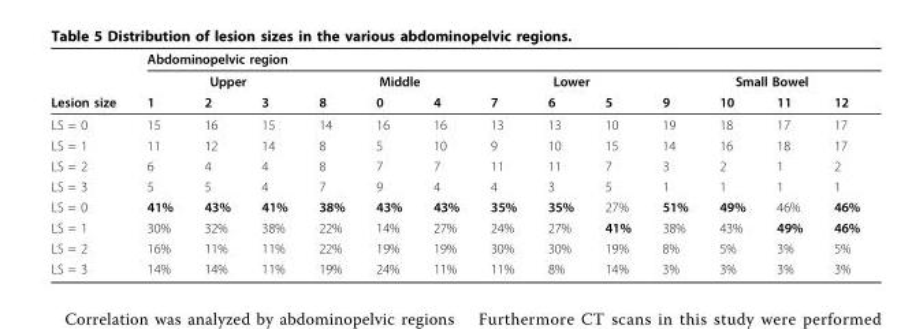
<table><thead><tr><td rowspan="3">Lesion size</td><td colspan="13">Abdominopelvic region</td></tr><tr><td colspan="3">Upper</td><td colspan="3">Middle</td><td colspan="3">Lower</td><td colspan="4">Small Bowel</td></tr><tr><td>1</td><td>2</td><td>3</td><td>8</td><td>0</td><td>4</td><td>7</td><td>6</td><td>5</td><td>9</td><td>10</td><td>11</td><td>12</td></tr></thead><tbody><tr><td>LS = 0</td><td>15</td><td>16</td><td>15</td><td>14</td><td>16</td><td>16</td><td>13</td><td>13</td><td>10</td><td>19</td><td>18</td><td>17</td><td>17</td></tr><tr><td>LS = 1</td><td>11</td><td>12</td><td>14</td><td>8</td><td>5</td><td>10</td><td>9</td><td>10</td><td>15</td><td>14</td><td>16</td><td>18</td><td>17</td></tr><tr><td>LS = 2</td><td>6</td><td>4</td><td>4</td><td>8</td><td>7</td><td>7</td><td>11</td><td>11</td><td>7</td><td>3</td><td>2</td><td>1</td><td>2</td></tr><tr><td>LS = 3</td><td>5</td><td>5</td><td>4</td><td>7</td><td>9</td><td>4</td><td>4</td><td>3</td><td>5</td><td>1</td><td>1</td><td>1</td><td>1</td></tr><tr><td>LS = 0</td><td>41%</td><td>43%</td><td>41%</td><td>38%</td><td>43%</td><td>43%</td><td>35%</td><td>35%</td><td>27%</td><td>51%</td><td>49%</td><td>46%</td><td>46%</td></tr><tr><td>LS = 1</td><td>30%</td><td>32%</td><td>38%</td><td>22%</td><td>14%</td><td>27%</td><td>24%</td><td>27%</td><td>41%</td><td>38%</td><td>43%</td><td>49%</td><td>46%</td></tr><tr><td>LS = 2</td><td>16%</td><td>11%</td><td>11%</td><td>22%</td><td>19%</td><td>19%</td><td>30%</td><td>30%</td><td>19%</td><td>8%</td><td>5%</td><td>3%</td><td>5%</td></tr><tr><td>LS = 3</td><td>14%</td><td>14%</td><td>11%</td><td>19%</td><td>24%</td><td>11%</td><td>11%</td><td>8%</td><td>14%</td><td>3%</td><td>3%</td><td>3%</td><td>3%</td></tr></tbody></table>